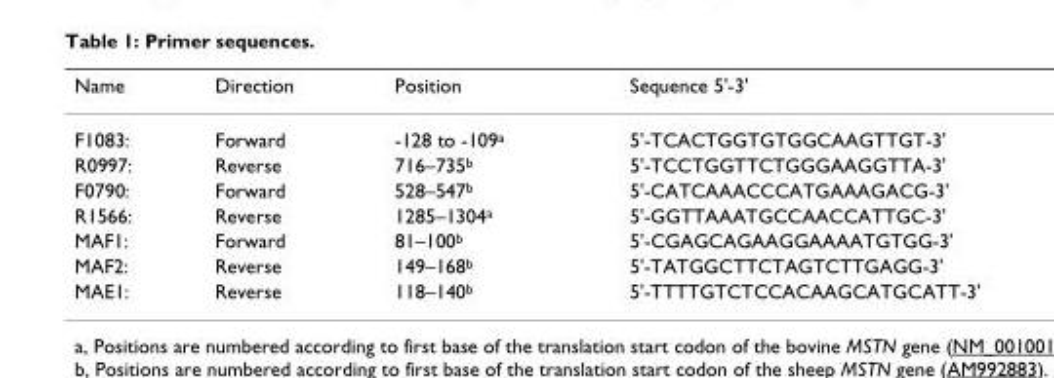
<table><thead><tr><td>Name</td><td>Direction</td><td>Position</td><td>Sequence 5&#x27;-3&#x27;</td></tr></thead><tbody><tr><td>F1083:</td><td>Forward</td><td>-128 to -109<sup>a</sup></td><td>5&#x27;-TCACTGGTGTGGCAAGTTGT-3&#x27;</td></tr><tr><td>R0997:</td><td>Reverse</td><td>716–735<sup>b</sup></td><td>5&#x27;-TCCTGGTTCTGGGAAGGTTA-3&#x27;</td></tr><tr><td>F0790:</td><td>Forward</td><td>528–547<sup>b</sup></td><td>5&#x27;-CATCAAACCCATGAAAGACG-3&#x27;</td></tr><tr><td>R1566:</td><td>Reverse</td><td>1285–1304<sup>a</sup></td><td>5&#x27;-GGTTAAATGCCAACCATTGC-3&#x27;</td></tr><tr><td>MAF1:</td><td>Forward</td><td>81–100<sup>b</sup></td><td>5&#x27;-CGAGCAGAAGGAAAATGTGG-3&#x27;</td></tr><tr><td>MAF2:</td><td>Reverse</td><td>149–168<sup>b</sup></td><td>5&#x27;-TATGGCTTCTAGTCTTGAGG-3&#x27;</td></tr><tr><td>MAE1:</td><td>Reverse</td><td>118–140<sup>b</sup></td><td>5&#x27;-TTTTGTCTCCACAAGCATGCATT-3&#x27;</td></tr></tbody></table>